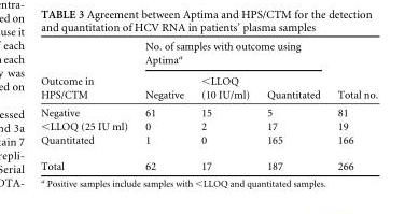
<table><thead><tr><td rowspan="2">Outcome in HPS/CTM</td><td colspan="3">No. of samples with outcome using Aptima<sup>a</sup></td><td rowspan="2">Total no.</td></tr><tr><td>Negative</td><td>&lt;LLOQ (10 IU/ml)</td><td>Quantitated</td></tr></thead><tbody><tr><td>Negative</td><td>61</td><td>15</td><td>5</td><td>81</td></tr><tr><td>&lt;LLOQ (25 IU ml)</td><td>0</td><td>2</td><td>17</td><td>19</td></tr><tr><td>Quantitated</td><td>1</td><td>0</td><td>165</td><td>166</td></tr><tr><td>Total</td><td>62</td><td>17</td><td>187</td><td>266</td></tr></tbody></table>